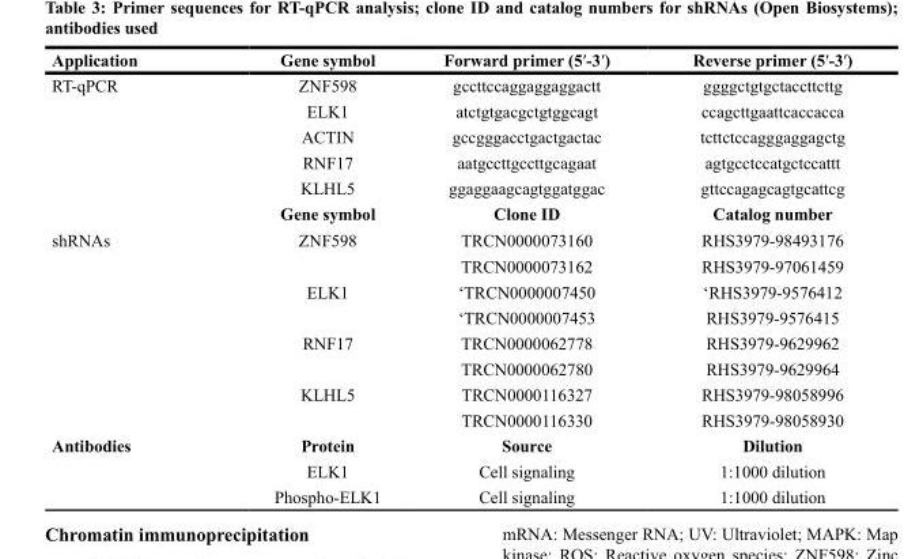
<table><thead><tr><td>Application</td><td>Gene symbol</td><td>Forward primer (5′-3′)</td><td>Reverse primer (5′-3′)</td></tr></thead><tbody><tr><td rowspan="6">RT-qPCR</td><td>ZNF598</td><td>gccttccaggaggaggactt</td><td>ggggctgtgctaccttcttg</td></tr><tr><td>ELK1</td><td>atctgtgacgctgtggcagt</td><td>ccagcttgaattcaccacca</td></tr><tr><td>ACTIN</td><td>gccgggacctgactgactac</td><td>tcttctccagggaggagctg</td></tr><tr><td>RNF17</td><td>aatgccttgccttgcagaat</td><td>agtgcctccatgctccattt</td></tr><tr><td>KLHL5</td><td>ggaggaagcagtggatggac</td><td>gttccagagcagtgcattcg</td></tr><tr><td>Gene symbol</td><td>Clone ID</td><td>Catalog number</td></tr><tr><td rowspan="8">shRNAs</td><td>ZNF598</td><td>TRCN0000073160</td><td>RHS3979-98493176</td></tr><tr><td></td><td>TRCN0000073162</td><td>RHS3979-97061459</td></tr><tr><td>ELK1</td><td>‘TRCN0000007450</td><td>‘RHS3979-9576412</td></tr><tr><td></td><td>‘TRCN0000007453</td><td>RHS3979-9576415</td></tr><tr><td>RNF17</td><td>TRCN0000062778</td><td>RHS3979-9629962</td></tr><tr><td></td><td>TRCN0000062780</td><td>RHS3979-9629964</td></tr><tr><td>KLHL5</td><td>TRCN0000116327</td><td>RHS3979-98058996</td></tr><tr><td></td><td>TRCN0000116330</td><td>RHS3979-98058930</td></tr><tr><td rowspan="3">Antibodies</td><td>Protein</td><td>Source</td><td>Dilution</td></tr><tr><td>ELK1</td><td>Cell signaling</td><td>1:1000 dilution</td></tr><tr><td>Phospho-ELK1</td><td>Cell signaling</td><td>1:1000 dilution</td></tr></tbody></table>